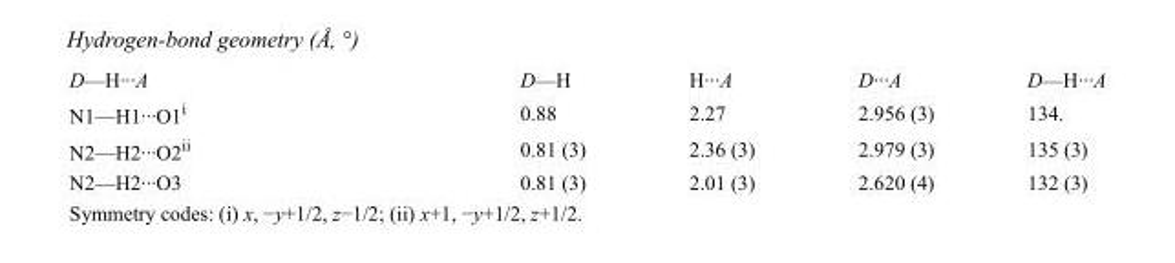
<table><tbody><tr><td>D—H···A</td><td>D—H</td><td>H···A</td><td>D···A</td><td>D—H···A</td></tr><tr><td>N1—H1···O1<sup>i</sup></td><td>0.88</td><td>2.27</td><td>2.956 (3)</td><td>134.</td></tr><tr><td>N2—H2···O2<sup>ii</sup></td><td>0.81 (3)</td><td>2.36 (3)</td><td>2.979 (3)</td><td>135 (3)</td></tr><tr><td>N2—H2···O3</td><td>0.81 (3)</td><td>2.01 (3)</td><td>2.620 (4)</td><td>132 (3)</td></tr></tbody></table>